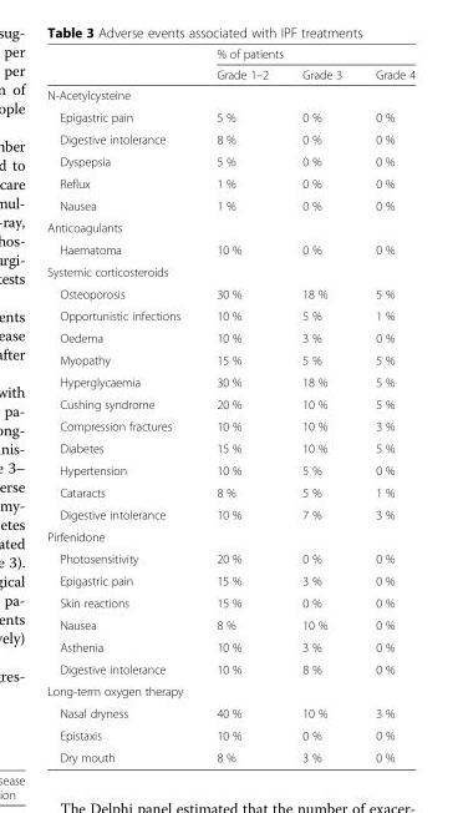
<table><thead><tr><td rowspan="2"></td><td colspan="3">% of patients</td></tr><tr><td>Grade 1–2</td><td>Grade 3</td><td>Grade 4</td></tr></thead><tbody><tr><td colspan="4">N-Acetylcysteine</td></tr><tr><td>Epigastric pain</td><td>5 %</td><td>0 %</td><td>0 %</td></tr><tr><td>Digestive intolerance</td><td>8 %</td><td>0 %</td><td>0 %</td></tr><tr><td>Dyspepsia</td><td>5 %</td><td>0 %</td><td>0 %</td></tr><tr><td>Reflux</td><td>1 %</td><td>0 %</td><td>0 %</td></tr><tr><td>Nausea</td><td>1 %</td><td>0 %</td><td>0 %</td></tr><tr><td colspan="4">Anticoagulants</td></tr><tr><td>Haematoma</td><td>10 %</td><td>0 %</td><td>0 %</td></tr><tr><td colspan="4">Systemic corticosteroids</td></tr><tr><td>Osteoporosis</td><td>30 %</td><td>18 %</td><td>5 %</td></tr><tr><td>Opportunistic infections</td><td>10 %</td><td>5 %</td><td>1 %</td></tr><tr><td>Oedema</td><td>10 %</td><td>3 %</td><td>0 %</td></tr><tr><td>Myopathy</td><td>15 %</td><td>5 %</td><td>5 %</td></tr><tr><td>Hyperglycaemia</td><td>30 %</td><td>18 %</td><td>5 %</td></tr><tr><td>Cushing syndrome</td><td>20 %</td><td>10 %</td><td>5 %</td></tr><tr><td>Compression fractures</td><td>10 %</td><td>10 %</td><td>3 %</td></tr><tr><td>Diabetes</td><td>15 %</td><td>10 %</td><td>5 %</td></tr><tr><td>Hypertension</td><td>10 %</td><td>5 %</td><td>0 %</td></tr><tr><td>Cataracts</td><td>8 %</td><td>5 %</td><td>1 %</td></tr><tr><td>Digestive intolerance</td><td>10 %</td><td>7 %</td><td>3 %</td></tr><tr><td colspan="4">Pirfenidone</td></tr><tr><td>Photosensitivity</td><td>20 %</td><td>0 %</td><td>0 %</td></tr><tr><td>Epigastric pain</td><td>15 %</td><td>3 %</td><td>0 %</td></tr><tr><td>Skin reactions</td><td>15 %</td><td>0 %</td><td>0 %</td></tr><tr><td>Nausea</td><td>8 %</td><td>10 %</td><td>0 %</td></tr><tr><td>Asthenia</td><td>10 %</td><td>3 %</td><td>0 %</td></tr><tr><td>Digestive intolerance</td><td>10 %</td><td>8 %</td><td>0 %</td></tr><tr><td colspan="4">Long-term oxygen therapy</td></tr><tr><td>Nasal dryness</td><td>40 %</td><td>10 %</td><td>3 %</td></tr><tr><td>Epistaxis</td><td>10 %</td><td>0 %</td><td>0 %</td></tr><tr><td>Dry mouth</td><td>8 %</td><td>3 %</td><td>0 %</td></tr></tbody></table>